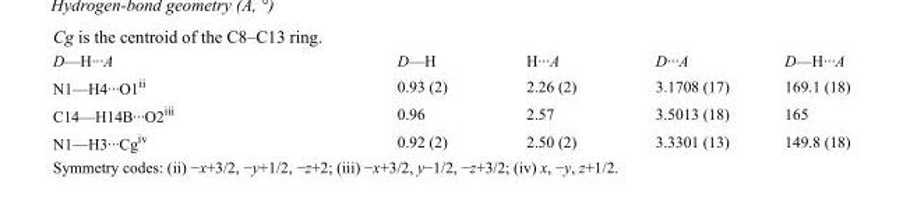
<table><tbody><tr><td>D—H···A</td><td>D—H</td><td>H···A</td><td>D···A</td><td>D—H···A</td></tr><tr><td>N1—H4···O1<sup>ii</sup></td><td>0.93 (2)</td><td>2.26 (2)</td><td>3.1708 (17)</td><td>169.1 (18)</td></tr><tr><td>C14—H14B···O2<sup>iii</sup></td><td>0.96</td><td>2.57</td><td>3.5013 (18)</td><td>165</td></tr><tr><td>N1—H3···Cg<sup>iv</sup></td><td>0.92 (2)</td><td>2.50 (2)</td><td>3.3301 (13)</td><td>149.8 (18)</td></tr></tbody></table>